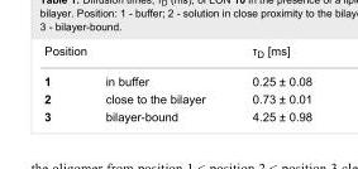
<table><tbody><tr><td colspan="2">Position</td><td>τ<sub>D</sub> [ms]</td></tr><tr><td>1</td><td>in buffer</td><td>0.25 ± 0.08</td></tr><tr><td>2</td><td>close to the bilayer</td><td>0.73 ± 0.01</td></tr><tr><td>3</td><td>bilayer-bound</td><td>4.25 ± 0.98</td></tr></tbody></table>